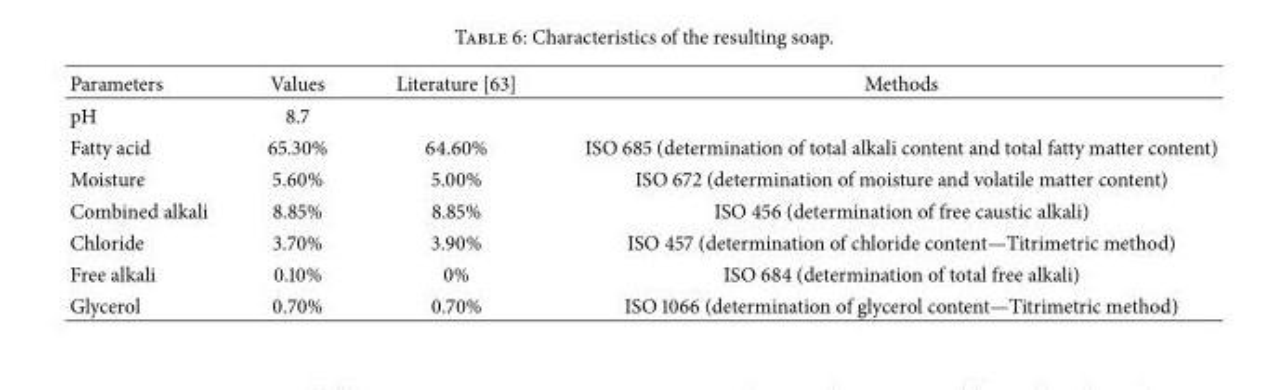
<table><thead><tr><td>Parameters</td><td>Values</td><td>Literature [63]</td><td>Methods</td></tr></thead><tbody><tr><td>pH</td><td>8.7</td><td></td><td></td></tr><tr><td>Fatty acid</td><td>65.30%</td><td>64.60%</td><td>ISO 685 (determination of total alkali content and total fatty matter content)</td></tr><tr><td>Moisture</td><td>5.60%</td><td>5.00%</td><td>ISO 672 (determination of moisture and volatile matter content)</td></tr><tr><td>Combined alkali</td><td>8.85%</td><td>8.85%</td><td>ISO 456 (determination of free caustic alkali)</td></tr><tr><td>Chloride</td><td>3.70%</td><td>3.90%</td><td>ISO 457 (determination of chloride content—Titrimetric method)</td></tr><tr><td>Free alkali</td><td>0.10%</td><td>0%</td><td>ISO 684 (determination of total free alkali)</td></tr><tr><td>Glycerol</td><td>0.70%</td><td>0.70%</td><td>ISO 1066 (determination of glycerol content—Titrimetric method)</td></tr></tbody></table>